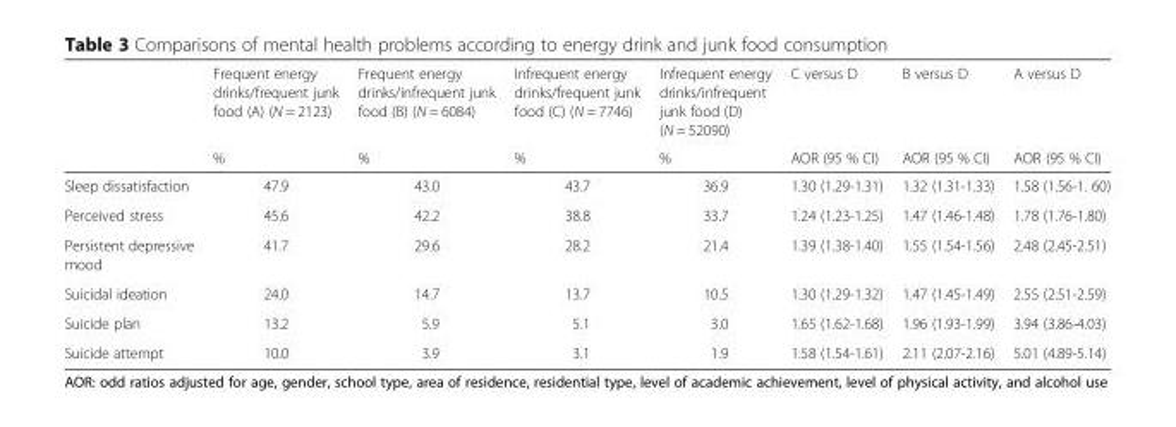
<table><thead><tr><td rowspan="2"></td><td rowspan="2">Frequent energy drinks/frequent junk food (A) (N = 2123) %</td><td rowspan="2">Frequent energy drinks/infrequent junk food (B) (N = 6084) %</td><td rowspan="2">Infrequent energy drinks/frequent junk food (C) (N = 7746) %</td><td rowspan="2">Infrequent energy drinks/infrequent junk food (D) (N = 52090) %</td><td rowspan="2">C versus D AOR (95 % CI)</td><td rowspan="2">B versus D AOR (95 % CI)</td><td rowspan="2">A versus D AOR (95 % CI)</td></tr><tr></tr></thead><tbody><tr><td>Sleep dissatisfaction</td><td>47.9</td><td>43.0</td><td>43.7</td><td>36.9</td><td>1.30 (1.29-1.31)</td><td>1.32 (1.31-1.33)</td><td>1.58 (1.56-1. 60)</td></tr><tr><td>Perceived stress</td><td>45.6</td><td>42.2</td><td>38.8</td><td>33.7</td><td>1.24 (1.23-1.25)</td><td>1.47 (1.46-1.48)</td><td>1.78 (1.76-1.80)</td></tr><tr><td>Persistent depressive mood</td><td>41.7</td><td>29.6</td><td>28.2</td><td>21.4</td><td>1.39 (1.38-1.40)</td><td>1.55 (1.54-1.56)</td><td>2.48 (2.45-2.51)</td></tr><tr><td>Suicidal ideation</td><td>24.0</td><td>14.7</td><td>13.7</td><td>10.5</td><td>1.30 (1.29-1.32)</td><td>1.47 (1.45-1.49)</td><td>2.55 (2.51-2.59)</td></tr><tr><td>Suicide plan</td><td>13.2</td><td>5.9</td><td>5.1</td><td>3.0</td><td>1.65 (1.62-1.68)</td><td>1.96 (1.93-1.99)</td><td>3.94 (3.86-4.03)</td></tr><tr><td>Suicide attempt</td><td>10.0</td><td>3.9</td><td>3.1</td><td>1.9</td><td>1.58 (1.54-1.61)</td><td>2.11 (2.07-2.16)</td><td>5.01 (4.89-5.14)</td></tr></tbody></table>